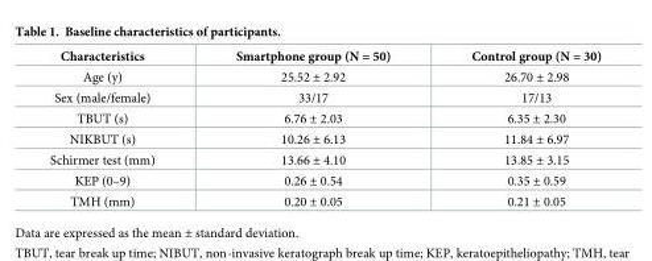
<table><thead><tr><td>Characteristics</td><td>Smartphone group (N = 50)</td><td>Control group (N = 30)</td></tr></thead><tbody><tr><td>Age (y)</td><td>25.52 ± 2.92</td><td>26.70 ± 2.98</td></tr><tr><td>Sex (male/female)</td><td>33/17</td><td>17/13</td></tr><tr><td>TBUT (s)</td><td>6.76 ± 2.03</td><td>6.35 ± 2.30</td></tr><tr><td>NIKBUT (s)</td><td>10.26 ± 6.13</td><td>11.84 ± 6.97</td></tr><tr><td>Schirmer test (mm)</td><td>13.66 ± 4.10</td><td>13.85 ± 3.15</td></tr><tr><td>KEP (0–9)</td><td>0.26 ± 0.54</td><td>0.35 ± 0.59</td></tr><tr><td>TMH (mm)</td><td>0.20 ± 0.05</td><td>0.21 ± 0.05</td></tr></tbody></table>